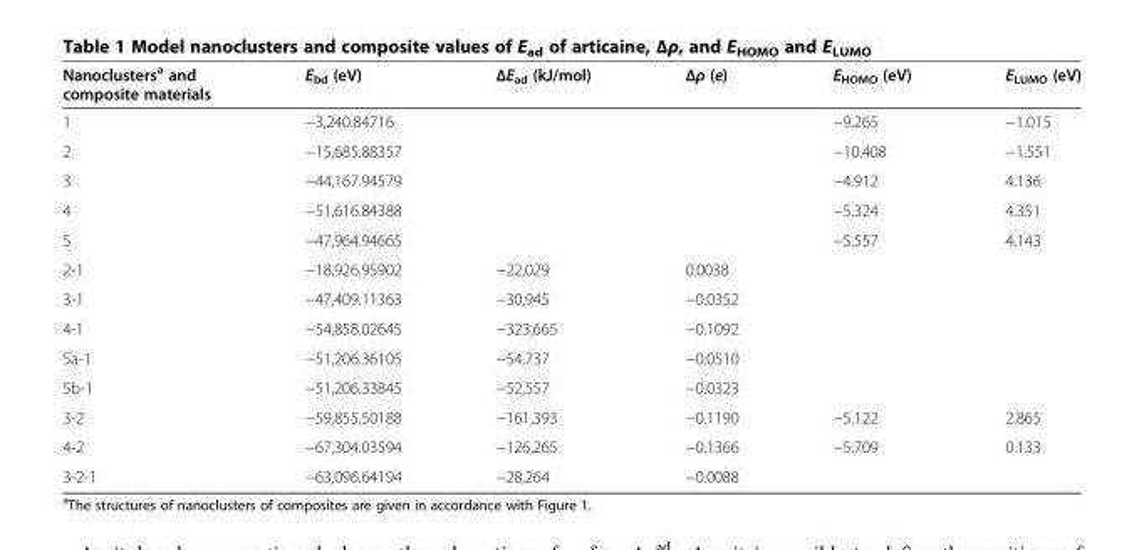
<table><thead><tr><td>Nanoclusters<sup>a</sup> and composite materials</td><td>E<sub>bd</sub> (eV)</td><td>ΔЕad (kJ/mol)</td><td>Δρ (e)</td><td>Е<sub>HOMO</sub> (eV)</td><td>Е<sub>LUMO</sub> (eV)</td></tr></thead><tbody><tr><td>1</td><td>−3,240.84716</td><td></td><td></td><td>−9.265</td><td>−1.015</td></tr><tr><td>2</td><td>−15,685.88357</td><td></td><td></td><td>−10.408</td><td>−1.551</td></tr><tr><td>3</td><td>−44,167.94579</td><td></td><td></td><td>−4.912</td><td>4.136</td></tr><tr><td>4</td><td>−51,616.84388</td><td></td><td></td><td>−5.324</td><td>4.351</td></tr><tr><td>5</td><td>−47,964.94665</td><td></td><td></td><td>−5.557</td><td>4.143</td></tr><tr><td>2-1</td><td>−18,926.95902</td><td>−22,029</td><td>0.0038</td><td></td><td></td></tr><tr><td>3-1</td><td>−47,409.11363</td><td>−30,945</td><td>−0.0352</td><td></td><td></td></tr><tr><td>4-1</td><td>−54,858.02645</td><td>−323,665</td><td>−0.1092</td><td></td><td></td></tr><tr><td>5а-1</td><td>−51,206.36105</td><td>−54,737</td><td>−0.0510</td><td></td><td></td></tr><tr><td>5b-1</td><td>−51,206.33845</td><td>−52,557</td><td>−0.0323</td><td></td><td></td></tr><tr><td>3-2</td><td>−59,855.50188</td><td>−161,393</td><td>−0.1190</td><td>−5.122</td><td>2.865</td></tr><tr><td>4-2</td><td>−67,304.03594</td><td>−126,265</td><td>−0.1366</td><td>−5.709</td><td>0.133</td></tr><tr><td>3-2-1</td><td>−63,096.64194</td><td>−28,264</td><td>−0.0088</td><td></td><td></td></tr></tbody></table>